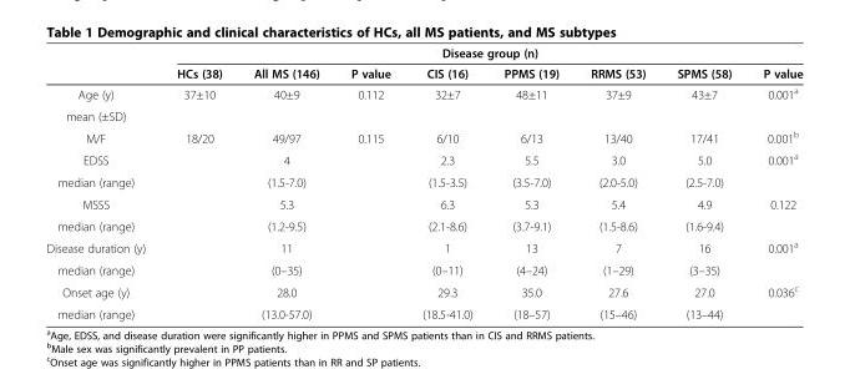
<table><thead><tr><td rowspan="2"></td><td colspan="8">Disease group (n)</td></tr><tr><td>HCs (38)</td><td>All MS (146)</td><td>P value</td><td>CIS (16)</td><td>PPMS (19)</td><td>RRMS (53)</td><td>SPMS (58)</td><td>P value</td></tr></thead><tbody><tr><td>Age (y)</td><td rowspan="2">37±10</td><td rowspan="2">40±9</td><td rowspan="2">0.112</td><td rowspan="2">32±7</td><td rowspan="2">48±11</td><td rowspan="2">37±9</td><td rowspan="2">43±7</td><td rowspan="2">0.001<sup>a</sup></td></tr><tr><td>mean (±SD)</td></tr><tr><td>M/F</td><td>18/20</td><td>49/97</td><td>0.115</td><td>6/10</td><td>6/13</td><td>13/40</td><td>17/41</td><td>0.001<sup>b</sup></td></tr><tr><td>EDSS</td><td></td><td>4</td><td></td><td>2.3</td><td>5.5</td><td>3.0</td><td>5.0</td><td rowspan="2">0.001<sup>a</sup></td></tr><tr><td>median (range)</td><td></td><td>(1.5-7.0)</td><td></td><td>(1.5-3.5)</td><td>(3.5-7.0)</td><td>(2.0-5.0)</td><td>(2.5-7.0)</td></tr><tr><td>MSSS</td><td></td><td>5.3</td><td></td><td>6.3</td><td>5.3</td><td>5.4</td><td>4.9</td><td rowspan="2">0.122</td></tr><tr><td>median (range)</td><td></td><td>(1.2-9.5)</td><td></td><td>(2.1-8.6)</td><td>(3.7-9.1)</td><td>(1.5-8.6)</td><td>(1.6-9.4)</td></tr><tr><td>Disease duration (y)</td><td></td><td>11</td><td></td><td>1</td><td>13</td><td>7</td><td>16</td><td rowspan="2">0.001<sup>a</sup></td></tr><tr><td>median (range)</td><td></td><td>(0–35)</td><td></td><td>(0–11)</td><td>(4–24)</td><td>(1–29)</td><td>(3–35)</td></tr><tr><td>Onset age (y)</td><td></td><td>28.0</td><td></td><td>29.3</td><td>35.0</td><td>27.6</td><td>27.0</td><td rowspan="2">0.036<sup>c</sup></td></tr><tr><td>median (range)</td><td></td><td>(13.0-57.0)</td><td></td><td>(18.5-41.0)</td><td>(18–57)</td><td>(15–46)</td><td>(13–44)</td></tr></tbody></table>